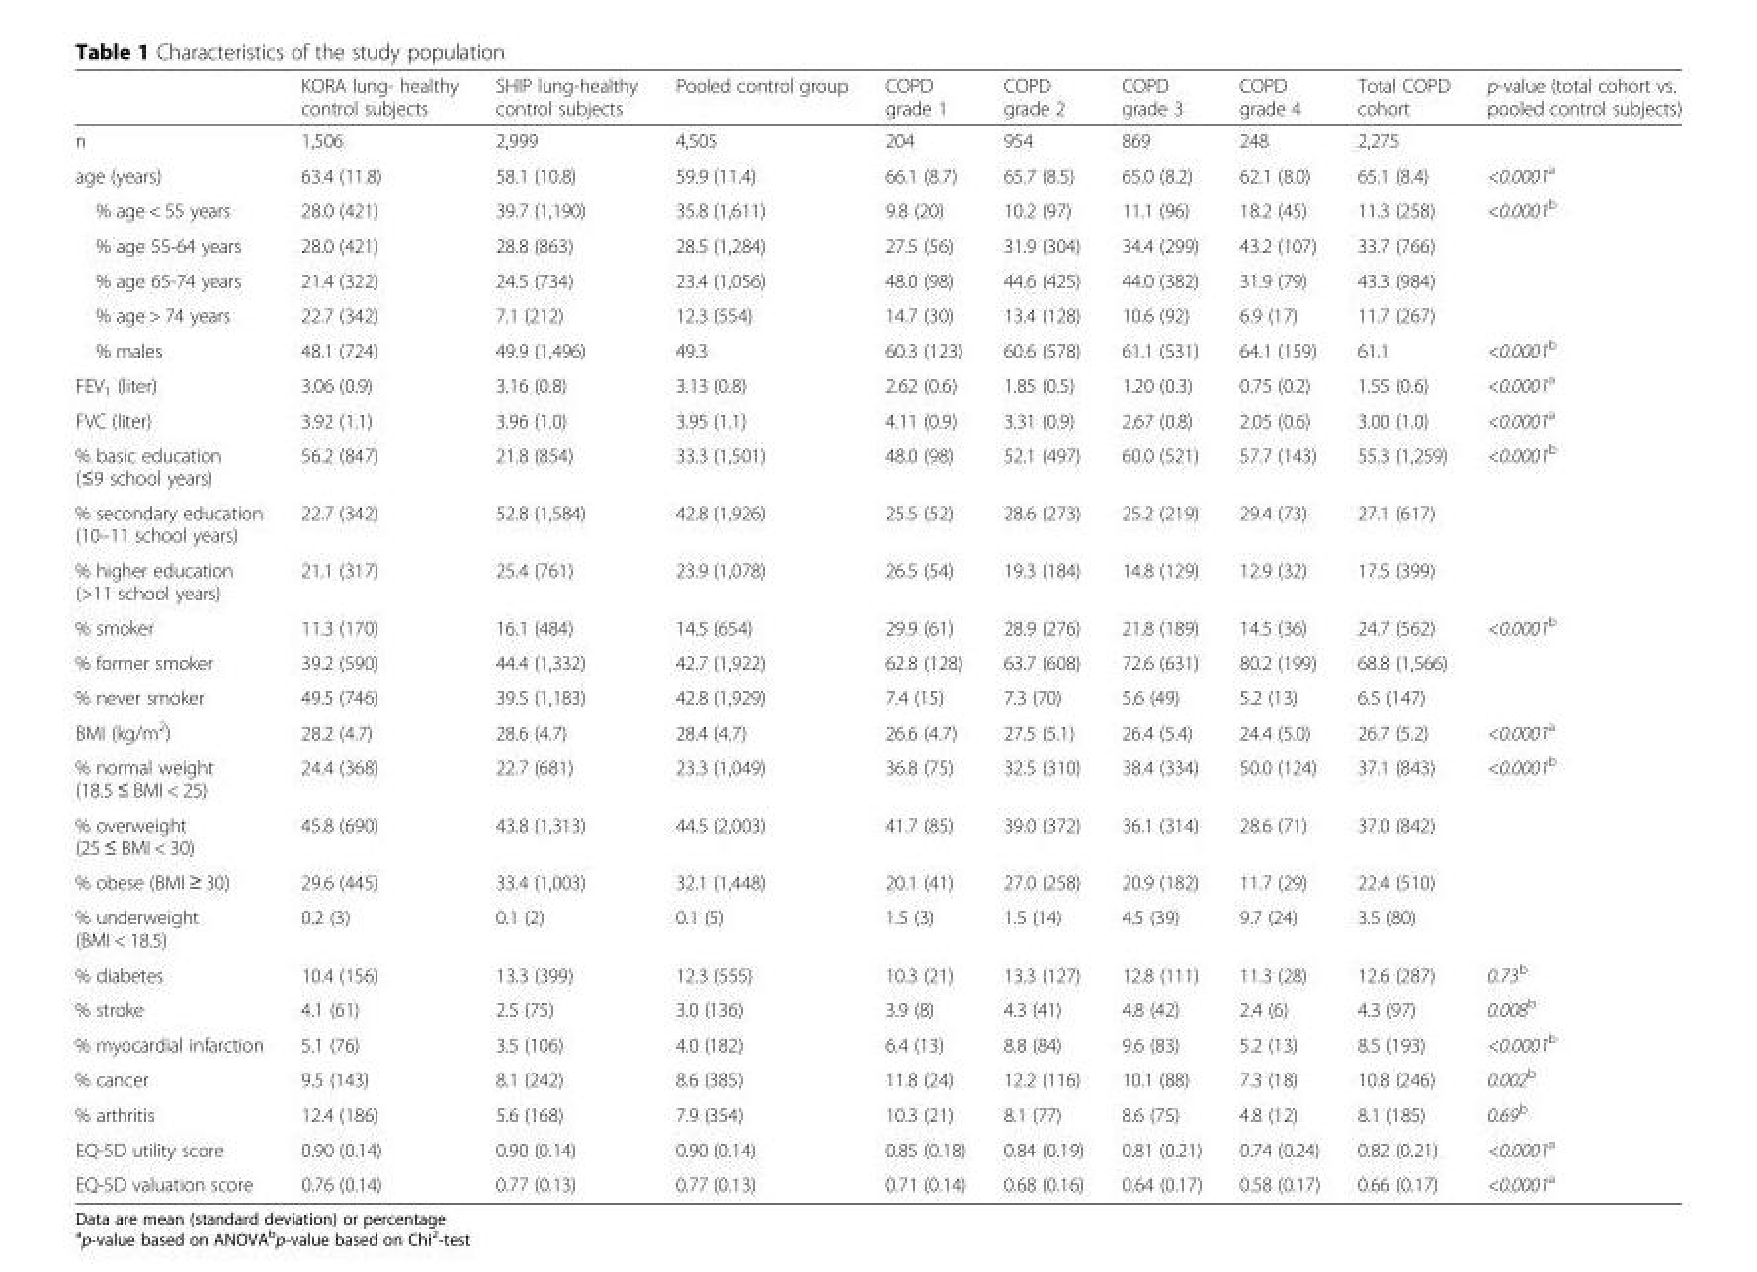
<table><thead><tr><td></td><td>KORA lung- healthy control subjects</td><td>SHIP lung-healthy control subjects</td><td>Pooled control group</td><td>COPD grade 1</td><td>COPD grade 2</td><td>COPD grade 3</td><td>COPD grade 4</td><td>Total COPD cohort</td><td>p-value (total cohort vs. pooled control subjects)</td></tr></thead><tbody><tr><td>n</td><td>1,506</td><td>2,999</td><td>4,505</td><td>204</td><td>954</td><td>869</td><td>248</td><td>2,275</td><td></td></tr><tr><td>age (years)</td><td>63.4 (11.8)</td><td>58.1 (10.8)</td><td>59.9 (11.4)</td><td>66.1 (8.7)</td><td>65.7 (8.5)</td><td>65.0 (8.2)</td><td>62.1 (8.0)</td><td>65.1 (8.4)</td><td>&lt;0.0001<sup>a</sup></td></tr><tr><td>% age &lt; 55 years</td><td>28.0 (421)</td><td>39.7 (1,190)</td><td>35.8 (1,611)</td><td>9.8 (20)</td><td>10.2 (97)</td><td>11.1 (96)</td><td>18.2 (45)</td><td>11.3 (258)</td><td>&lt;0.0001<sup>b</sup></td></tr><tr><td>% age 55-64 years</td><td>28.0 (421)</td><td>28.8 (863)</td><td>28.5 (1,284)</td><td>27.5 (56)</td><td>31.9 (304)</td><td>34.4 (299)</td><td>43.2 (107)</td><td>33.7 (766)</td><td></td></tr><tr><td>% age 65-74 years</td><td>21.4 (322)</td><td>24.5 (734)</td><td>23.4 (1,056)</td><td>48.0 (98)</td><td>44.6 (425)</td><td>44.0 (382)</td><td>31.9 (79)</td><td>43.3 (984)</td><td></td></tr><tr><td>% age &gt; 74 years</td><td>22.7 (342)</td><td>7.1 (212)</td><td>12.3 (554)</td><td>14.7 (30)</td><td>13.4 (128)</td><td>10.6 (92)</td><td>6.9 (17)</td><td>11.7 (267)</td><td></td></tr><tr><td>% males</td><td>48.1 (724)</td><td>49.9 (1,496)</td><td>49.3</td><td>60.3 (123)</td><td>60.6 (578)</td><td>61.1 (531)</td><td>64.1 (159)</td><td>61.1</td><td>&lt;0.0001<sup>b</sup></td></tr><tr><td>FEV<sub>1</sub> (liter)</td><td>3.06 (0.9)</td><td>3.16 (0.8)</td><td>3.13 (0.8)</td><td>2.62 (0.6)</td><td>1.85 (0.5)</td><td>1.20 (0.3)</td><td>0.75 (0.2)</td><td>1.55 (0.6)</td><td>&lt;0.0001<sup>a</sup></td></tr><tr><td>FVC (liter)</td><td>3.92 (1.1)</td><td>3.96 (1.0)</td><td>3.95 (1.1)</td><td>4.11 (0.9)</td><td>3.31 (0.9)</td><td>2.67 (0.8)</td><td>2.05 (0.6)</td><td>3.00 (1.0)</td><td>&lt;0.0001<sup>a</sup></td></tr><tr><td>% basic education (≤9 school years)</td><td>56.2 (847)</td><td>21.8 (854)</td><td>33.3 (1,501)</td><td>48.0 (98)</td><td>52.1 (497)</td><td>60.0 (521)</td><td>57.7 (143)</td><td>55.3 (1,259)</td><td rowspan="3">&lt;0.0001<sup>b</sup></td></tr><tr><td>% secondary education (10–11 school years)</td><td>22.7 (342)</td><td>52.8 (1,584)</td><td>42.8 (1,926)</td><td>25.5 (52)</td><td>28.6 (273)</td><td>25.2 (219)</td><td>29.4 (73)</td><td>27.1 (617)</td></tr><tr><td>% higher education (&gt;11 school years)</td><td>21.1 (317)</td><td>25.4 (761)</td><td>23.9 (1,078)</td><td>26.5 (54)</td><td>19.3 (184)</td><td>14.8 (129)</td><td>12.9 (32)</td><td>17.5 (399)</td></tr><tr><td>% smoker</td><td>11.3 (170)</td><td>16.1 (484)</td><td>14.5 (654)</td><td>29.9 (61)</td><td>28.9 (276)</td><td>21.8 (189)</td><td>14.5 (36)</td><td>24.7 (562)</td><td rowspan="3">&lt;0.0001<sup>b</sup></td></tr><tr><td>% former smoker</td><td>39.2 (590)</td><td>44.4 (1,332)</td><td>42.7 (1,922)</td><td>62.8 (128)</td><td>63.7 (608)</td><td>72.6 (631)</td><td>80.2 (199)</td><td>68.8 (1,566)</td></tr><tr><td>% never smoker</td><td>49.5 (746)</td><td>39.5 (1,183)</td><td>42.8 (1,929)</td><td>7.4 (15)</td><td>7.3 (70)</td><td>5.6 (49)</td><td>5.2 (13)</td><td>6.5 (147)</td></tr><tr><td>BMI (kg/m<sup>2</sup>)</td><td>28.2 (4.7)</td><td>28.6 (4.7)</td><td>28.4 (4.7)</td><td>26.6 (4.7)</td><td>27.5 (5.1)</td><td>26.4 (5.4)</td><td>24.4 (5.0)</td><td>26.7 (5.2)</td><td>&lt;0.0001<sup>a</sup></td></tr><tr><td>% normal weight (18.5 ≤ BMI &lt; 25)</td><td>24.4 (368)</td><td>22.7 (681)</td><td>23.3 (1,049)</td><td>36.8 (75)</td><td>32.5 (310)</td><td>38.4 (334)</td><td>50.0 (124)</td><td>37.1 (843)</td><td rowspan="4">&lt;0.0001<sup>b</sup></td></tr><tr><td>% overweight (25 ≤ BMI &lt; 30)</td><td>45.8 (690)</td><td>43.8 (1,313)</td><td>44.5 (2,003)</td><td>41.7 (85)</td><td>39.0 (372)</td><td>36.1 (314)</td><td>28.6 (71)</td><td>37.0 (842)</td></tr><tr><td>% obese (BMI ≥ 30)</td><td>29.6 (445)</td><td>33.4 (1,003)</td><td>32.1 (1,448)</td><td>20.1 (41)</td><td>27.0 (258)</td><td>20.9 (182)</td><td>11.7 (29)</td><td>22.4 (510)</td></tr><tr><td>% underweight (BMI &lt; 18.5)</td><td>0.2 (3)</td><td>0.1 (2)</td><td>0.1 (5)</td><td>1.5 (3)</td><td>1.5 (14)</td><td>4.5 (39)</td><td>9.7 (24)</td><td>3.5 (80)</td></tr><tr><td>% diabetes</td><td>10.4 (156)</td><td>13.3 (399)</td><td>12.3 (555)</td><td>10.3 (21)</td><td>13.3 (127)</td><td>12.8 (111)</td><td>11.3 (28)</td><td>12.6 (287)</td><td>0.73<sup>b</sup></td></tr><tr><td>% stroke</td><td>4.1 (61)</td><td>2.5 (75)</td><td>3.0 (136)</td><td>3.9 (8)</td><td>4.3 (41)</td><td>4.8 (42)</td><td>2.4 (6)</td><td>4.3 (97)</td><td>0.008<sup>b</sup></td></tr><tr><td>% myocardial infarction</td><td>5.1 (76)</td><td>3.5 (106)</td><td>4.0 (182)</td><td>6.4 (13)</td><td>8.8 (84)</td><td>9.6 (83)</td><td>5.2 (13)</td><td>8.5 (193)</td><td>&lt;0.0001<sup>b</sup></td></tr><tr><td>% cancer</td><td>9.5 (143)</td><td>8.1 (242)</td><td>8.6 (385)</td><td>11.8 (24)</td><td>12.2 (116)</td><td>10.1 (88)</td><td>7.3 (18)</td><td>10.8 (246)</td><td>0.002<sup>b</sup></td></tr><tr><td>% arthritis</td><td>12.4 (186)</td><td>5.6 (168)</td><td>7.9 (354)</td><td>10.3 (21)</td><td>8.1 (77)</td><td>8.6 (75)</td><td>4.8 (12)</td><td>8.1 (185)</td><td>0.69<sup>b</sup></td></tr><tr><td>EQ-5D utility score</td><td>0.90 (0.14)</td><td>0.90 (0.14)</td><td>0.90 (0.14)</td><td>0.85 (0.18)</td><td>0.84 (0.19)</td><td>0.81 (0.21)</td><td>0.74 (0.24)</td><td>0.82 (0.21)</td><td>&lt;0.0001<sup>a</sup></td></tr><tr><td>EQ-5D valuation score</td><td>0.76 (0.14)</td><td>0.77 (0.13)</td><td>0.77 (0.13)</td><td>0.71 (0.14)</td><td>0.68 (0.16)</td><td>0.64 (0.17)</td><td>0.58 (0.17)</td><td>0.66 (0.17)</td><td>&lt;0.0001<sup>a</sup></td></tr></tbody></table>